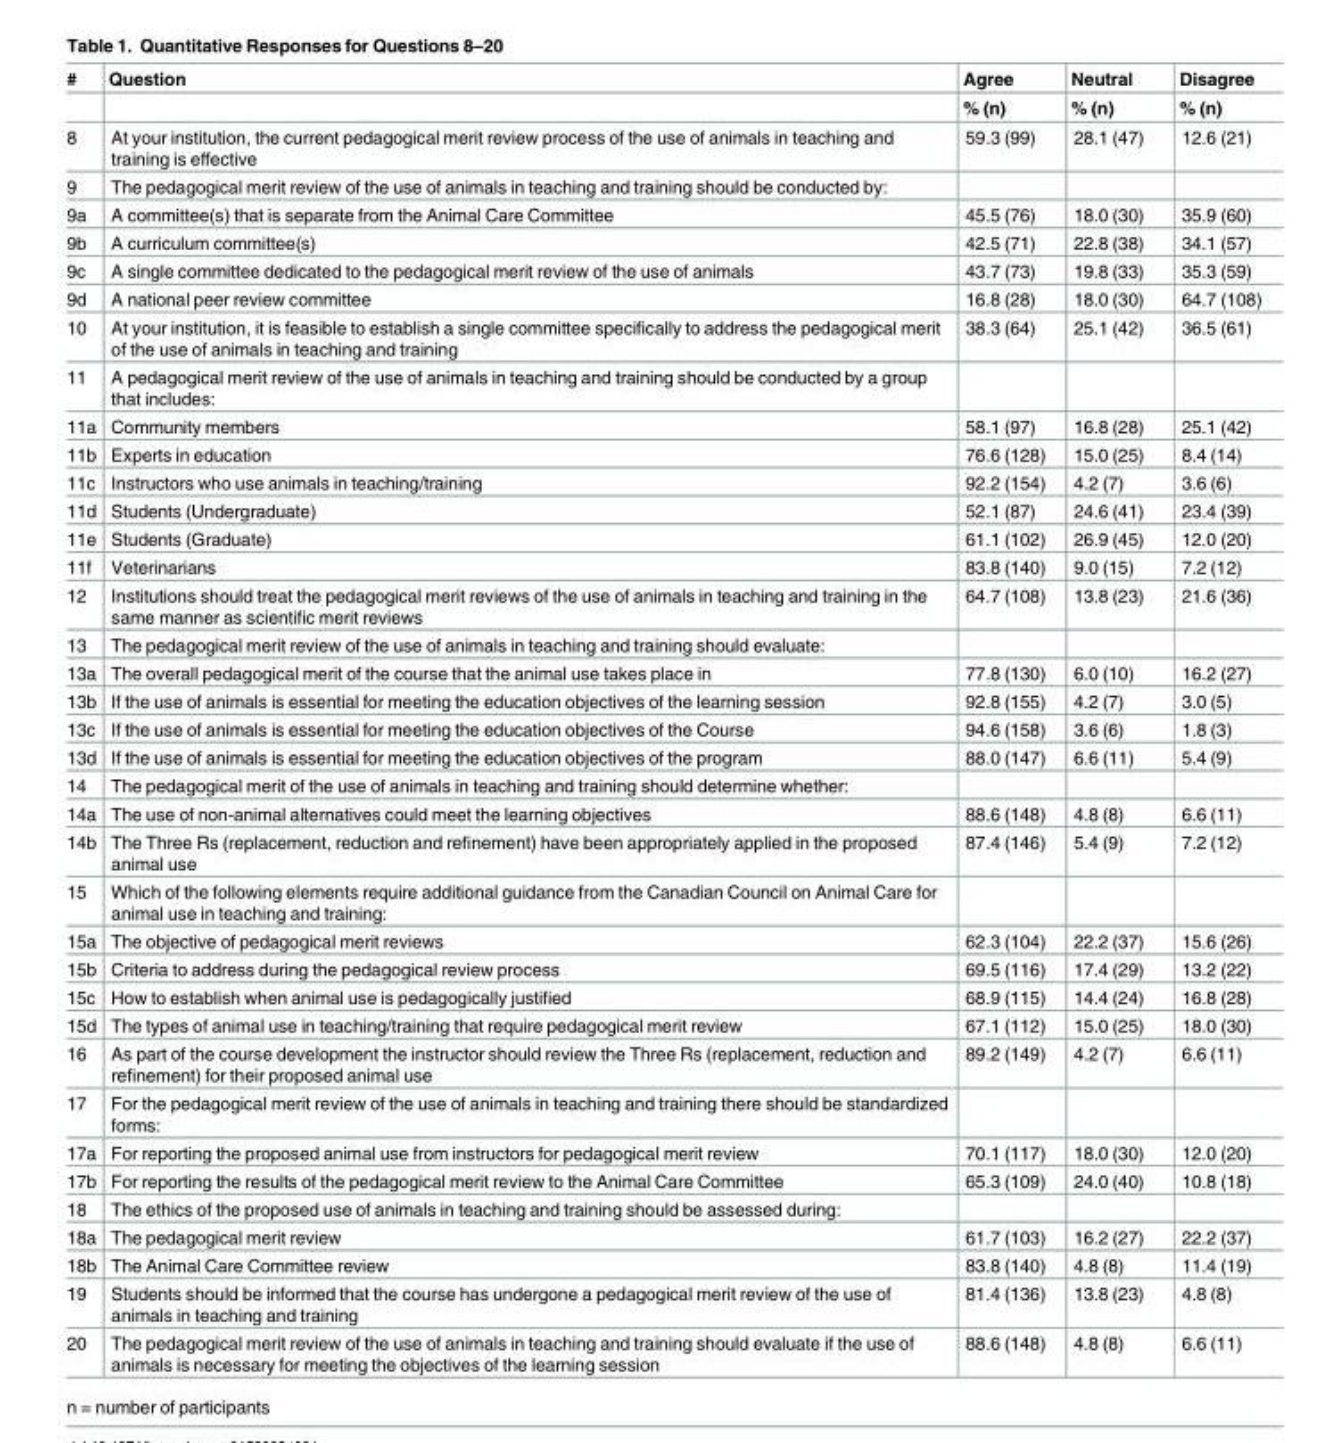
<table><thead><tr><td rowspan="2">#</td><td rowspan="2">Question</td><td rowspan="2">Agree % (n)</td><td rowspan="2">Neutral % (n)</td><td rowspan="2">Disagree % (n)</td></tr><tr></tr></thead><tbody><tr><td>8</td><td>At your institution, the current pedagogical merit review process of the use of animals in teaching and training is effective</td><td>59.3 (99)</td><td>28.1 (47)</td><td>12.6 (21)</td></tr><tr><td>9</td><td>The pedagogical merit review of the use of animals in teaching and training should be conducted by:</td><td></td><td></td><td></td></tr><tr><td>9a</td><td>A committee(s) that is separate from the Animal Care Committee</td><td>45.5 (76)</td><td>18.0 (30)</td><td>35.9 (60)</td></tr><tr><td>9b</td><td>A curriculum committee(s)</td><td>42.5 (71)</td><td>22.8 (38)</td><td>34.1 (57)</td></tr><tr><td>9c</td><td>A single committee dedicated to the pedagogical merit review of the use of animals</td><td>43.7 (73)</td><td>19.8 (33)</td><td>35.3 (59)</td></tr><tr><td>9d</td><td>A national peer review committee</td><td>16.8 (28)</td><td>18.0 (30)</td><td>64.7 (108)</td></tr><tr><td>10</td><td>At your institution, it is feasible to establish a single committee specifically to address the pedagogical merit of the use of animals in teaching and training</td><td>38.3 (64)</td><td>25.1 (42)</td><td>36.5 (61)</td></tr><tr><td>11</td><td>A pedagogical merit review of the use of animals in teaching and training should be conducted by a group that includes:</td><td></td><td></td><td></td></tr><tr><td>11a</td><td>Community members</td><td>58.1 (97)</td><td>16.8 (28)</td><td>25.1 (42)</td></tr><tr><td>11b</td><td>Experts in education</td><td>76.6 (128)</td><td>15.0 (25)</td><td>8.4 (14)</td></tr><tr><td>11c</td><td>Instructors who use animals in teaching/training</td><td>92.2 (154)</td><td>4.2 (7)</td><td>3.6 (6)</td></tr><tr><td>11d</td><td>Students (Undergraduate)</td><td>52.1 (87)</td><td>24.6 (41)</td><td>23.4 (39)</td></tr><tr><td>11e</td><td>Students (Graduate)</td><td>61.1 (102)</td><td>26.9 (45)</td><td>12.0 (20)</td></tr><tr><td>11f</td><td>Veterinarians</td><td>83.8 (140)</td><td>9.0 (15)</td><td>7.2 (12)</td></tr><tr><td>12</td><td>Institutions should treat the pedagogical merit reviews of the use of animals in teaching and training in the same manner as scientific merit reviews</td><td>64.7 (108)</td><td>13.8 (23)</td><td>21.6 (36)</td></tr><tr><td>13</td><td>The pedagogical merit review of the use of animals in teaching and training should evaluate:</td><td></td><td></td><td></td></tr><tr><td>13a</td><td>The overall pedagogical merit of the course that the animal use takes place in</td><td>77.8 (130)</td><td>6.0 (10)</td><td>16.2 (27)</td></tr><tr><td>13b</td><td>If the use of animals is essential for meeting the education objectives of the learning session</td><td>92.8 (155)</td><td>4.2 (7)</td><td>3.0 (5)</td></tr><tr><td>13c</td><td>If the use of animals is essential for meeting the education objectives of the Course</td><td>94.6 (158)</td><td>3.6 (6)</td><td>1.8 (3)</td></tr><tr><td>13d</td><td>If the use of animals is essential for meeting the education objectives of the program</td><td>88.0 (147)</td><td>6.6 (11)</td><td>5.4 (9)</td></tr><tr><td>14</td><td>The pedagogical merit of the use of animals in teaching and training should determine whether:</td><td></td><td></td><td></td></tr><tr><td>14a</td><td>The use of non-animal alternatives could meet the learning objectives</td><td>88.6 (148)</td><td>4.8 (8)</td><td>6.6 (11)</td></tr><tr><td>14b</td><td>The Three Rs (replacement, reduction and refinement) have been appropriately applied in the proposed animal use</td><td>87.4 (146)</td><td>5.4 (9)</td><td>7.2 (12)</td></tr><tr><td>15</td><td>Which of the following elements require additional guidance from the Canadian Council on Animal Care for animal use in teaching and training:</td><td></td><td></td><td></td></tr><tr><td>15a</td><td>The objective of pedagogical merit reviews</td><td>62.3 (104)</td><td>22.2 (37)</td><td>15.6 (26)</td></tr><tr><td>15b</td><td>Criteria to address during the pedagogical review process</td><td>69.5 (116)</td><td>17.4 (29)</td><td>13.2 (22)</td></tr><tr><td>15c</td><td>How to establish when animal use is pedagogically justified</td><td>68.9 (115)</td><td>14.4 (24)</td><td>16.8 (28)</td></tr><tr><td>15d</td><td>The types of animal use in teaching/training that require pedagogical merit review</td><td>67.1 (112)</td><td>15.0 (25)</td><td>18.0 (30)</td></tr><tr><td>16</td><td>As part of the course development the instructor should review the Three Rs (replacement, reduction and refinement) for their proposed animal use</td><td>89.2 (149)</td><td>4.2 (7)</td><td>6.6 (11)</td></tr><tr><td>17</td><td>For the pedagogical merit review of the use of animals in teaching and training there should be standardized forms:</td><td></td><td></td><td></td></tr><tr><td>17a</td><td>For reporting the proposed animal use from instructors for pedagogical merit review</td><td>70.1 (117)</td><td>18.0 (30)</td><td>12.0 (20)</td></tr><tr><td>17b</td><td>For reporting the results of the pedagogical merit review to the Animal Care Committee</td><td>65.3 (109)</td><td>24.0 (40)</td><td>10.8 (18)</td></tr><tr><td>18</td><td>The ethics of the proposed use of animals in teaching and training should be assessed during:</td><td></td><td></td><td></td></tr><tr><td>18a</td><td>The pedagogical merit review</td><td>61.7 (103)</td><td>16.2 (27)</td><td>22.2 (37)</td></tr><tr><td>18b</td><td>The Animal Care Committee review</td><td>83.8 (140)</td><td>4.8 (8)</td><td>11.4 (19)</td></tr><tr><td>19</td><td>Students should be informed that the course has undergone a pedagogical merit review of the use of animals in teaching and training</td><td>81.4 (136)</td><td>13.8 (23)</td><td>4.8 (8)</td></tr><tr><td>20</td><td>The pedagogical merit review of the use of animals in teaching and training should evaluate if the use of animals is necessary for meeting the objectives of the learning session</td><td>88.6 (148)</td><td>4.8 (8)</td><td>6.6 (11)</td></tr></tbody></table>